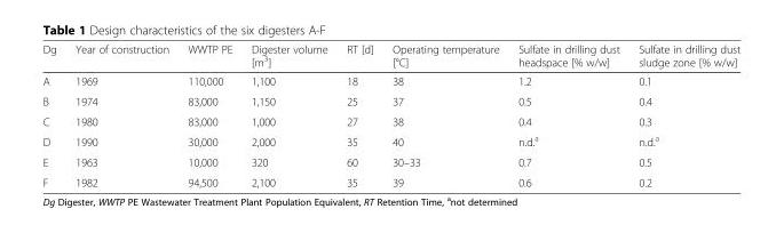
<table><thead><tr><td>Dg</td><td>Year of construction</td><td>WWTP PE</td><td>Digester volume [m<sup>3</sup>]</td><td>RT [d]</td><td>Operating temperature [°C]</td><td>Sulfate in drilling dust headspace [% w/w]</td><td>Sulfate in drilling dust sludge zone [% w/w]</td></tr></thead><tbody><tr><td>A</td><td>1969</td><td>110,000</td><td>1,100</td><td>18</td><td>38</td><td>1.2</td><td>0.1</td></tr><tr><td>B</td><td>1974</td><td>83,000</td><td>1,150</td><td>25</td><td>37</td><td>0.5</td><td>0.4</td></tr><tr><td>C</td><td>1980</td><td>83,000</td><td>1,000</td><td>27</td><td>38</td><td>0.4</td><td>0.3</td></tr><tr><td>D</td><td>1990</td><td>30,000</td><td>2,000</td><td>35</td><td>40</td><td>n.d.<sup>a</sup></td><td>n.d.<sup>a</sup></td></tr><tr><td>E</td><td>1963</td><td>10,000</td><td>320</td><td>60</td><td>30–33</td><td>0.7</td><td>0.5</td></tr><tr><td>F</td><td>1982</td><td>94,500</td><td>2,100</td><td>35</td><td>39</td><td>0.6</td><td>0.2</td></tr></tbody></table>